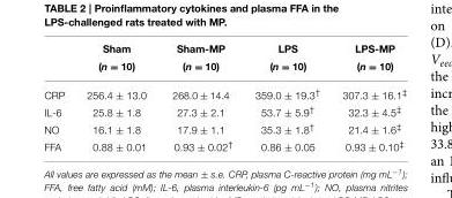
<table><thead><tr><td></td><td>Sham (n = 10)</td><td>Sham-MP (n = 10)</td><td>LPS (n = 10)</td><td>LPS-MP (n = 10)</td></tr></thead><tbody><tr><td>CRP</td><td>256.4 ± 13.0</td><td>268.0 ± 14.4</td><td>359.0 ± 19.3<sup>†</sup></td><td>307.3 ± 16.1<sup>‡</sup></td></tr><tr><td>IL-6</td><td>25.8 ± 1.8</td><td>27.3 ± 2.1</td><td>53.7 ± 5.9<sup>†</sup></td><td>32.3 ± 4.5<sup>‡</sup></td></tr><tr><td>NO</td><td>16.1 ± 1.8</td><td>17.9 ± 1.1</td><td>35.3 ± 1.8<sup>†</sup></td><td>21.4 ± 1.6<sup>‡</sup></td></tr><tr><td>FFA</td><td>0.88 ± 0.01</td><td>0.93 ± 0.02<sup>†</sup></td><td>0.86 ± 0.05</td><td>0.93 ± 0.10<sup>‡</sup></td></tr></tbody></table>